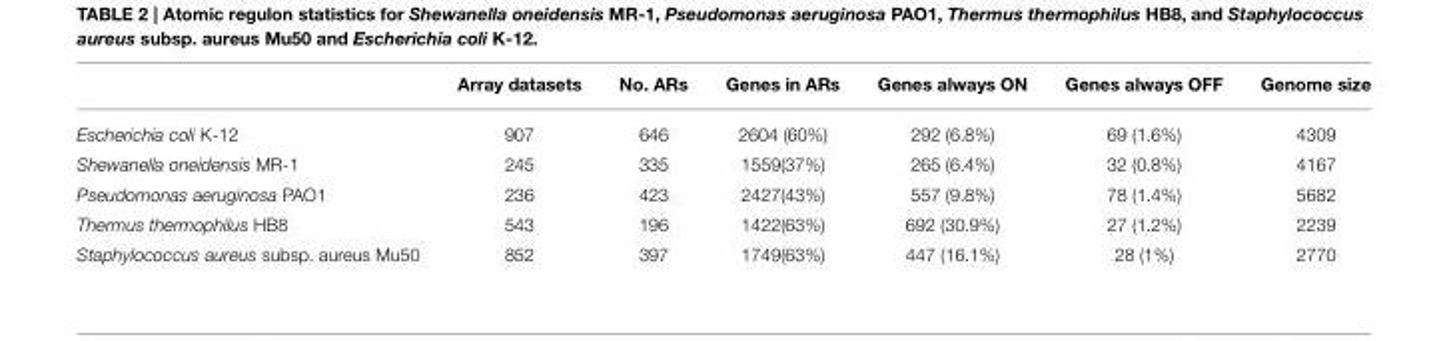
<table><thead><tr><td></td><td>Array datasets</td><td>No. ARs</td><td>Genes in ARs</td><td>Genes always ON</td><td>Genes always OFF</td><td>Genome size</td></tr></thead><tbody><tr><td>Escherichia coli K-12</td><td>907</td><td>646</td><td>2604 (60%)</td><td>292 (6.8%)</td><td>69 (1.6%)</td><td>4309</td></tr><tr><td>Shewanella oneidensis MR-1</td><td>245</td><td>335</td><td>1559(37%)</td><td>265 (6.4%)</td><td>32 (0.8%)</td><td>4167</td></tr><tr><td>Pseudomonas aeruginosa PAO1</td><td>236</td><td>423</td><td>2427(43%)</td><td>557 (9.8%)</td><td>78 (1.4%)</td><td>5682</td></tr><tr><td>Thermus thermophilus HB8</td><td>543</td><td>196</td><td>1422(63%)</td><td>692 (30.9%)</td><td>27 (1.2%)</td><td>2239</td></tr><tr><td>Staphylococcus aureus subsp. aureus Mu50</td><td>852</td><td>397</td><td>1749(63%)</td><td>447 (16.1%)</td><td>28 (1%)</td><td>2770</td></tr></tbody></table>